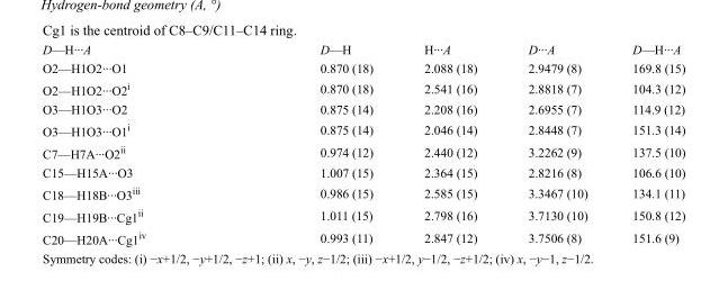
<table><tbody><tr><td>D—H···A</td><td>D—H</td><td>H···A</td><td>D···A</td><td>D—H···A</td></tr><tr><td>O2—H1O2···O1</td><td>0.870 (18)</td><td>2.088 (18)</td><td>2.9479 (8)</td><td>169.8 (15)</td></tr><tr><td>O2—H1O2···O2<sup>i</sup></td><td>0.870 (18)</td><td>2.541 (16)</td><td>2.8818 (7)</td><td>104.3 (12)</td></tr><tr><td>O3—H1O3···O2</td><td>0.875 (14)</td><td>2.208 (16)</td><td>2.6955 (7)</td><td>114.9 (12)</td></tr><tr><td>O3—H1O3···O1<sup>i</sup></td><td>0.875 (14)</td><td>2.046 (14)</td><td>2.8448 (7)</td><td>151.3 (14)</td></tr><tr><td>C7—H7A···O2<sup>ii</sup></td><td>0.974 (12)</td><td>2.440 (12)</td><td>3.2262 (9)</td><td>137.5 (10)</td></tr><tr><td>C15—H15A···O3</td><td>1.007 (15)</td><td>2.364 (15)</td><td>2.8216 (8)</td><td>106.6 (10)</td></tr><tr><td>C18—H18B···O3<sup>iii</sup></td><td>0.986 (15)</td><td>2.585 (15)</td><td>3.3467 (10)</td><td>134.1 (11)</td></tr><tr><td>C19—H19B···Cg1<sup>ii</sup></td><td>1.011 (15)</td><td>2.798 (16)</td><td>3.7130 (10)</td><td>150.8 (12)</td></tr><tr><td>C20—H20A···Cg1<sup>iv</sup></td><td>0.993 (11)</td><td>2.847 (12)</td><td>3.7506 (8)</td><td>151.6 (9)</td></tr></tbody></table>